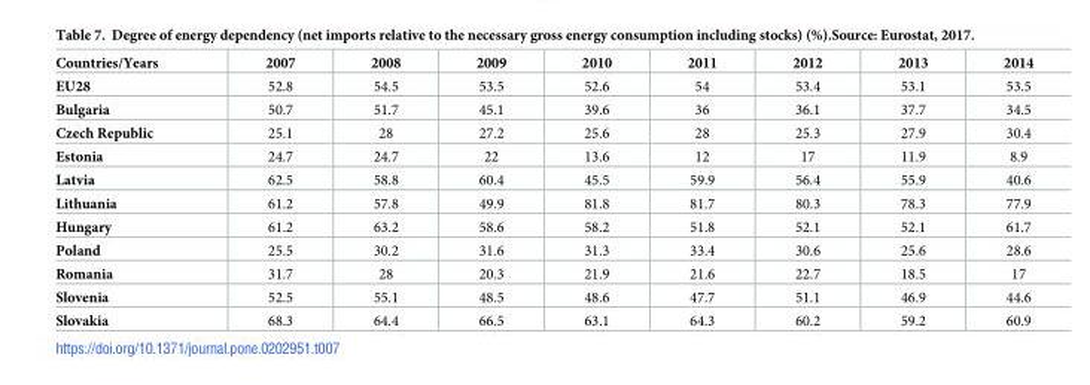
<table><thead><tr><td>Countries/Years</td><td>2007</td><td>2008</td><td>2009</td><td>2010</td><td>2011</td><td>2012</td><td>2013</td><td>2014</td></tr></thead><tbody><tr><td>EU28</td><td>52.8</td><td>54.5</td><td>53.5</td><td>52.6</td><td>54</td><td>53.4</td><td>53.1</td><td>53.5</td></tr><tr><td>Bulgaria</td><td>50.7</td><td>51.7</td><td>45.1</td><td>39.6</td><td>36</td><td>36.1</td><td>37.7</td><td>34.5</td></tr><tr><td>Czech Republic</td><td>25.1</td><td>28</td><td>27.2</td><td>25.6</td><td>28</td><td>25.3</td><td>27.9</td><td>30.4</td></tr><tr><td>Estonia</td><td>24.7</td><td>24.7</td><td>22</td><td>13.6</td><td>12</td><td>17</td><td>11.9</td><td>8.9</td></tr><tr><td>Latvia</td><td>62.5</td><td>58.8</td><td>60.4</td><td>45.5</td><td>59.9</td><td>56.4</td><td>55.9</td><td>40.6</td></tr><tr><td>Lithuania</td><td>61.2</td><td>57.8</td><td>49.9</td><td>81.8</td><td>81.7</td><td>80.3</td><td>78.3</td><td>77.9</td></tr><tr><td>Hungary</td><td>61.2</td><td>63.2</td><td>58.6</td><td>58.2</td><td>51.8</td><td>52.1</td><td>52.1</td><td>61.7</td></tr><tr><td>Poland</td><td>25.5</td><td>30.2</td><td>31.6</td><td>31.3</td><td>33.4</td><td>30.6</td><td>25.6</td><td>28.6</td></tr><tr><td>Romania</td><td>31.7</td><td>28</td><td>20.3</td><td>21.9</td><td>21.6</td><td>22.7</td><td>18.5</td><td>17</td></tr><tr><td>Slovenia</td><td>52.5</td><td>55.1</td><td>48.5</td><td>48.6</td><td>47.7</td><td>51.1</td><td>46.9</td><td>44.6</td></tr><tr><td>Slovakia</td><td>68.3</td><td>64.4</td><td>66.5</td><td>63.1</td><td>64.3</td><td>60.2</td><td>59.2</td><td>60.9</td></tr></tbody></table>